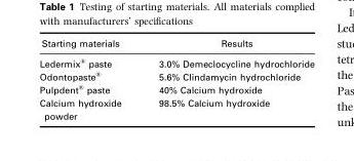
<table><thead><tr><td>Starting materials</td><td>Results</td></tr></thead><tbody><tr><td>Ledermix® paste</td><td>3.0% Demeclocycline hydrochloride</td></tr><tr><td>Odontopaste®</td><td>5.6% Clindamycin hydrochloride</td></tr><tr><td>Pulpdent® paste</td><td>40% Calcium hydroxide</td></tr><tr><td>Calcium hydroxide powder</td><td>98.5% Calcium hydroxide</td></tr></tbody></table>